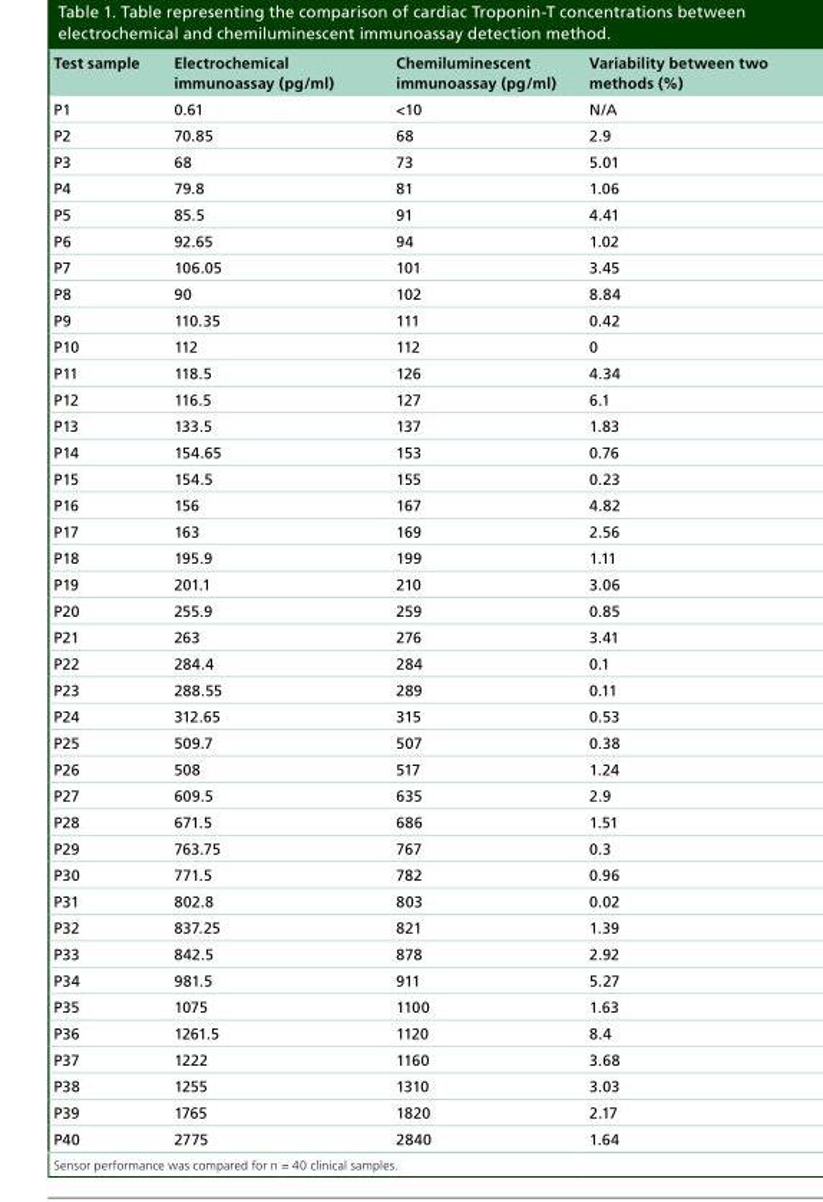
<table><thead><tr><td>Test sample</td><td>Electrochemical immunoassay (pg/ml)</td><td>Chemiluminescent immunoassay (pg/ml)</td><td>Variability between two methods (%)</td></tr></thead><tbody><tr><td>P1</td><td>0.61</td><td>&lt;10</td><td>N/A</td></tr><tr><td>P2</td><td>70.85</td><td>68</td><td>2.9</td></tr><tr><td>P3</td><td>68</td><td>73</td><td>5.01</td></tr><tr><td>P4</td><td>79.8</td><td>81</td><td>1.06</td></tr><tr><td>P5</td><td>85.5</td><td>91</td><td>4.41</td></tr><tr><td>P6</td><td>92.65</td><td>94</td><td>1.02</td></tr><tr><td>P7</td><td>106.05</td><td>101</td><td>3.45</td></tr><tr><td>P8</td><td>90</td><td>102</td><td>8.84</td></tr><tr><td>P9</td><td>110.35</td><td>111</td><td>0.42</td></tr><tr><td>P10</td><td>112</td><td>112</td><td>0</td></tr><tr><td>P11</td><td>118.5</td><td>126</td><td>4.34</td></tr><tr><td>P12</td><td>116.5</td><td>127</td><td>6.1</td></tr><tr><td>P13</td><td>133.5</td><td>137</td><td>1.83</td></tr><tr><td>P14</td><td>154.65</td><td>153</td><td>0.76</td></tr><tr><td>P15</td><td>154.5</td><td>155</td><td>0.23</td></tr><tr><td>P16</td><td>156</td><td>167</td><td>4.82</td></tr><tr><td>P17</td><td>163</td><td>169</td><td>2.56</td></tr><tr><td>P18</td><td>195.9</td><td>199</td><td>1.11</td></tr><tr><td>P19</td><td>201.1</td><td>210</td><td>3.06</td></tr><tr><td>P20</td><td>255.9</td><td>259</td><td>0.85</td></tr><tr><td>P21</td><td>263</td><td>276</td><td>3.41</td></tr><tr><td>P22</td><td>284.4</td><td>284</td><td>0.1</td></tr><tr><td>P23</td><td>288.55</td><td>289</td><td>0.11</td></tr><tr><td>P24</td><td>312.65</td><td>315</td><td>0.53</td></tr><tr><td>P25</td><td>509.7</td><td>507</td><td>0.38</td></tr><tr><td>P26</td><td>508</td><td>517</td><td>1.24</td></tr><tr><td>P27</td><td>609.5</td><td>635</td><td>2.9</td></tr><tr><td>P28</td><td>671.5</td><td>686</td><td>1.51</td></tr><tr><td>P29</td><td>763.75</td><td>767</td><td>0.3</td></tr><tr><td>P30</td><td>771.5</td><td>782</td><td>0.96</td></tr><tr><td>P31</td><td>802.8</td><td>803</td><td>0.02</td></tr><tr><td>P32</td><td>837.25</td><td>821</td><td>1.39</td></tr><tr><td>P33</td><td>842.5</td><td>878</td><td>2.92</td></tr><tr><td>P34</td><td>981.5</td><td>911</td><td>5.27</td></tr><tr><td>P35</td><td>1075</td><td>1100</td><td>1.63</td></tr><tr><td>P36</td><td>1261.5</td><td>1120</td><td>8.4</td></tr><tr><td>P37</td><td>1222</td><td>1160</td><td>3.68</td></tr><tr><td>P38</td><td>1255</td><td>1310</td><td>3.03</td></tr><tr><td>P39</td><td>1765</td><td>1820</td><td>2.17</td></tr><tr><td>P40</td><td>2775</td><td>2840</td><td>1.64</td></tr></tbody></table>